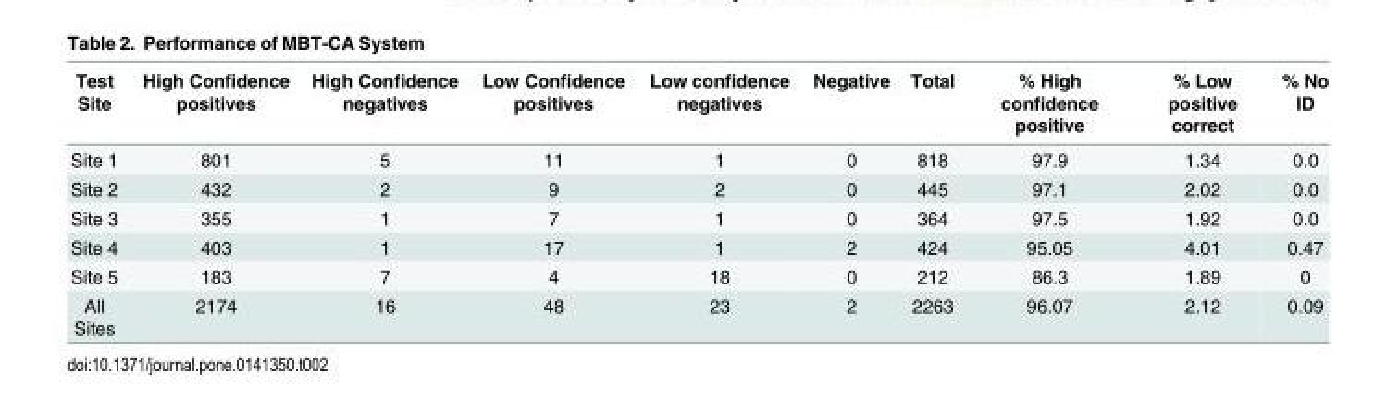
<table><thead><tr><td>Test Site</td><td>High Confidence positives</td><td>High Confidence negatives</td><td>Low Confidence positives</td><td>Low confidence negatives</td><td>Negative</td><td>Total</td><td>% High confidence positive</td><td>% Low positive correct</td><td>% No ID</td></tr></thead><tbody><tr><td>Site 1</td><td>801</td><td>5</td><td>11</td><td>1</td><td>0</td><td>818</td><td>97.9</td><td>1.34</td><td>0.0</td></tr><tr><td>Site 2</td><td>432</td><td>2</td><td>9</td><td>2</td><td>0</td><td>445</td><td>97.1</td><td>2.02</td><td>0.0</td></tr><tr><td>Site 3</td><td>355</td><td>1</td><td>7</td><td>1</td><td>0</td><td>364</td><td>97.5</td><td>1.92</td><td>0.0</td></tr><tr><td>Site 4</td><td>403</td><td>1</td><td>17</td><td>1</td><td>2</td><td>424</td><td>95.05</td><td>4.01</td><td>0.47</td></tr><tr><td>Site 5</td><td>183</td><td>7</td><td>4</td><td>18</td><td>0</td><td>212</td><td>86.3</td><td>1.89</td><td>0</td></tr><tr><td>All Sites</td><td>2174</td><td>16</td><td>48</td><td>23</td><td>2</td><td>2263</td><td>96.07</td><td>2.12</td><td>0.09</td></tr></tbody></table>